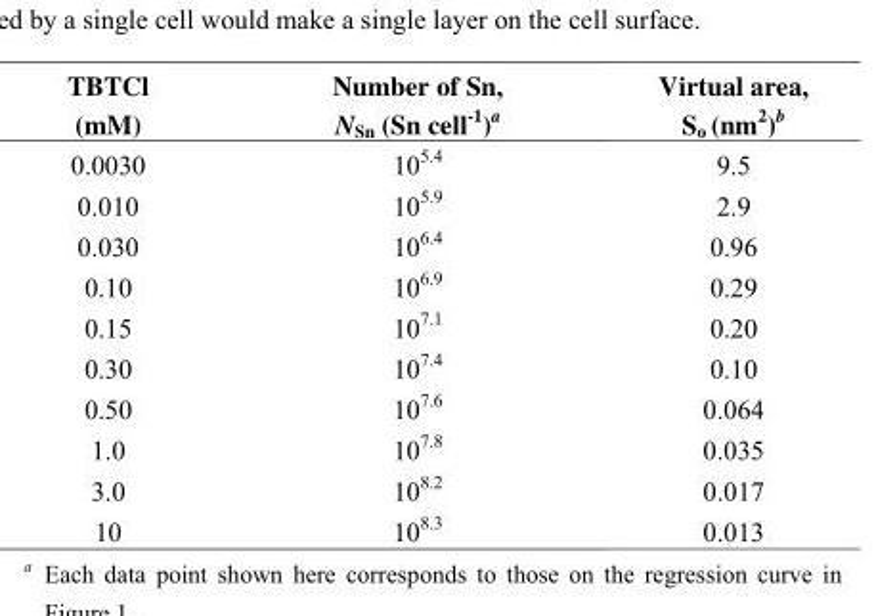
<table><thead><tr><td>TBTCl (mM)</td><td>Number of Sn, N<sub>Sn</sub> (Sn cell<sup>-1</sup>)a</td><td>Virtual area, S<sub>o</sub> (nm<sup>2</sup>)b</td></tr></thead><tbody><tr><td>0.0030</td><td>10<sup>5.4</sup></td><td>9.5</td></tr><tr><td>0.010</td><td>10<sup>5.9</sup></td><td>2.9</td></tr><tr><td>0.030</td><td>10<sup>6.4</sup></td><td>0.96</td></tr><tr><td>0.10</td><td>10<sup>6.9</sup></td><td>0.29</td></tr><tr><td>0.15</td><td>10<sup>7.1</sup></td><td>0.20</td></tr><tr><td>0.30</td><td>10<sup>7.4</sup></td><td>0.10</td></tr><tr><td>0.50</td><td>10<sup>7.6</sup></td><td>0.064</td></tr><tr><td>1.0</td><td>10<sup>7.8</sup></td><td>0.035</td></tr><tr><td>3.0</td><td>10<sup>8.2</sup></td><td>0.017</td></tr><tr><td>10</td><td>10<sup>8.3</sup></td><td>0.013</td></tr></tbody></table>